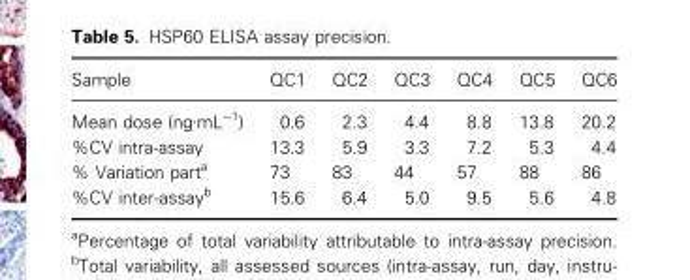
<table><thead><tr><td>Sample</td><td>QC1</td><td>QC2</td><td>QC3</td><td>QC4</td><td>QC5</td><td>QC6</td></tr></thead><tbody><tr><td>Mean dose (ngÆmL)1)</td><td>0.6</td><td>2.3</td><td>4.4</td><td>8.8</td><td>13.8</td><td>20.2</td></tr><tr><td>%CV intra-assay</td><td>13.3</td><td>5.9</td><td>3.3</td><td>7.2</td><td>5.3</td><td>4.4</td></tr><tr><td>% Variation part<sup>a</sup></td><td>73</td><td>83</td><td>44</td><td>57</td><td>88</td><td>86</td></tr><tr><td>%CV inter-assay<sup>b</sup></td><td>15.6</td><td>6.4</td><td>5.0</td><td>9.5</td><td>5.6</td><td>4.8</td></tr></tbody></table>